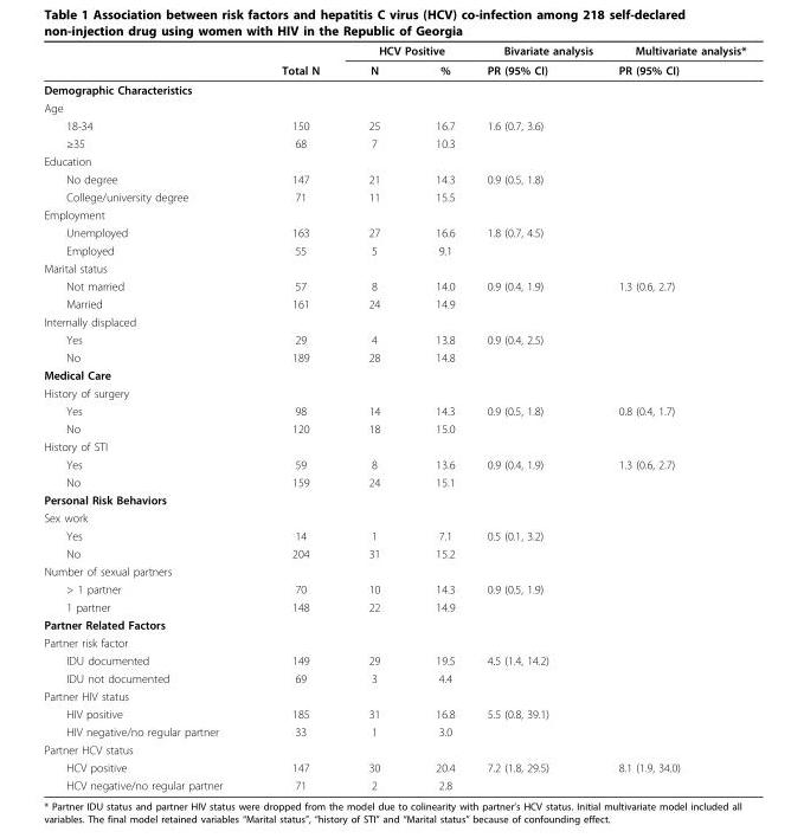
<table><thead><tr><td rowspan="2"></td><td rowspan="2">Total N</td><td colspan="2">HCV Positive</td><td rowspan="2">Bivariate analysis PR (95% CI)</td><td rowspan="2">Multivariate analysis* PR (95% CI)</td></tr><tr><td>N</td><td>%</td></tr></thead><tbody><tr><td colspan="6">Demographic Characteristics</td></tr><tr><td colspan="6">Age</td></tr><tr><td>18-34</td><td>150</td><td>25</td><td>16.7</td><td>1.6 (0.7, 3.6)</td><td></td></tr><tr><td>≥35</td><td>68</td><td>7</td><td>10.3</td><td></td><td></td></tr><tr><td colspan="6">Education</td></tr><tr><td>No degree</td><td>147</td><td>21</td><td>14.3</td><td>0.9 (0.5, 1.8)</td><td></td></tr><tr><td>College/university degree</td><td>71</td><td>11</td><td>15.5</td><td></td><td></td></tr><tr><td colspan="6">Employment</td></tr><tr><td>Unemployed</td><td>163</td><td>27</td><td>16.6</td><td>1.8 (0.7, 4.5)</td><td></td></tr><tr><td>Employed</td><td>55</td><td>5</td><td>9.1</td><td></td><td></td></tr><tr><td colspan="6">Marital status</td></tr><tr><td>Not married</td><td>57</td><td>8</td><td>14.0</td><td>0.9 (0.4, 1.9)</td><td>1.3 (0.6, 2.7)</td></tr><tr><td>Married</td><td>161</td><td>24</td><td>14.9</td><td></td><td></td></tr><tr><td colspan="6">Internally displaced</td></tr><tr><td>Yes</td><td>29</td><td>4</td><td>13.8</td><td>0.9 (0.4, 2.5)</td><td></td></tr><tr><td>No</td><td>189</td><td>28</td><td>14.8</td><td></td><td></td></tr><tr><td colspan="6">Medical Care</td></tr><tr><td colspan="6">History of surgery</td></tr><tr><td>Yes</td><td>98</td><td>14</td><td>14.3</td><td>0.9 (0.5, 1.8)</td><td>0.8 (0.4, 1.7)</td></tr><tr><td>No</td><td>120</td><td>18</td><td>15.0</td><td></td><td></td></tr><tr><td colspan="6">History of STI</td></tr><tr><td>Yes</td><td>59</td><td>8</td><td>13.6</td><td>0.9 (0.4, 1.9)</td><td>1.3 (0.6, 2.7)</td></tr><tr><td>No</td><td>159</td><td>24</td><td>15.1</td><td></td><td></td></tr><tr><td colspan="6">Personal Risk Behaviors</td></tr><tr><td colspan="6">Sex work</td></tr><tr><td>Yes</td><td>14</td><td>1</td><td>7.1</td><td>0.5 (0.1, 3.2)</td><td></td></tr><tr><td>No</td><td>204</td><td>31</td><td>15.2</td><td></td><td></td></tr><tr><td colspan="6">Number of sexual partners</td></tr><tr><td>&gt; 1 partner</td><td>70</td><td>10</td><td>14.3</td><td>0.9 (0.5, 1.9)</td><td></td></tr><tr><td>1 partner</td><td>148</td><td>22</td><td>14.9</td><td></td><td></td></tr><tr><td colspan="6">Partner Related Factors</td></tr><tr><td colspan="6">Partner risk factor</td></tr><tr><td>IDU documented</td><td>149</td><td>29</td><td>19.5</td><td>4.5 (1.4, 14.2)</td><td></td></tr><tr><td>IDU not documented</td><td>69</td><td>3</td><td>4.4</td><td></td><td></td></tr><tr><td colspan="6">Partner HIV status</td></tr><tr><td>HIV positive</td><td>185</td><td>31</td><td>16.8</td><td>5.5 (0.8, 39.1)</td><td></td></tr><tr><td>HIV negative/no regular partner</td><td>33</td><td>1</td><td>3.0</td><td></td><td></td></tr><tr><td colspan="6">Partner HCV status</td></tr><tr><td>HCV positive</td><td>147</td><td>30</td><td>20.4</td><td>7.2 (1.8, 29.5)</td><td>8.1 (1.9, 34.0)</td></tr><tr><td>HCV negative/no regular partner</td><td>71</td><td>2</td><td>2.8</td><td></td><td></td></tr></tbody></table>